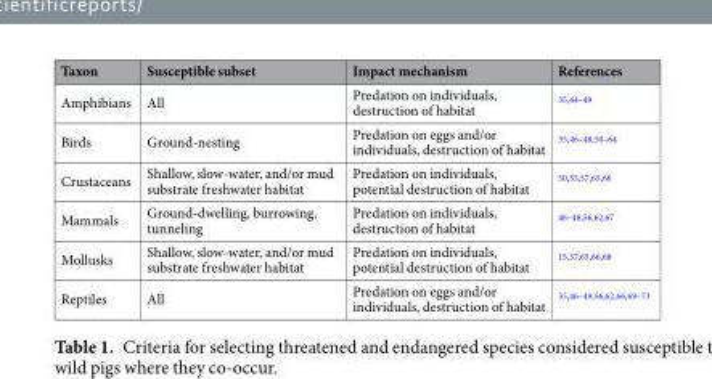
<table><thead><tr><td>Taxon</td><td>Susceptible subset</td><td>Impact mechanism</td><td>References</td></tr></thead><tbody><tr><td>Amphibians</td><td>All</td><td>Predation on individuals, destruction of habitat</td><td><sup>35,44–49</sup></td></tr><tr><td>Birds</td><td>Ground-nesting</td><td>Predation on eggs and/or individuals, destruction of habitat</td><td><sup>35,46–48,50–64</sup></td></tr><tr><td>Crustaceans</td><td>Shallow, slow-water, and/or mud substrate freshwater habitat</td><td>Predation on individuals, potential destruction of habitat</td><td><sup>50,55,57,65,66</sup></td></tr><tr><td>Mammals</td><td>Ground-dwelling, burrowing, tunneling</td><td>Predation on individuals, destruction of habitat</td><td><sup>46–48,56,62,67</sup></td></tr><tr><td>Mollusks</td><td>Shallow, slow-water, and/or mud substrate freshwater habitat</td><td>Predation on individuals, potential destruction of habitat</td><td><sup>15,57,65,66,68</sup></td></tr><tr><td>Reptiles</td><td>All</td><td>Predation on eggs and/or individuals, destruction of habitat</td><td><sup>35,46–49,56,62,66,69–73</sup></td></tr></tbody></table>